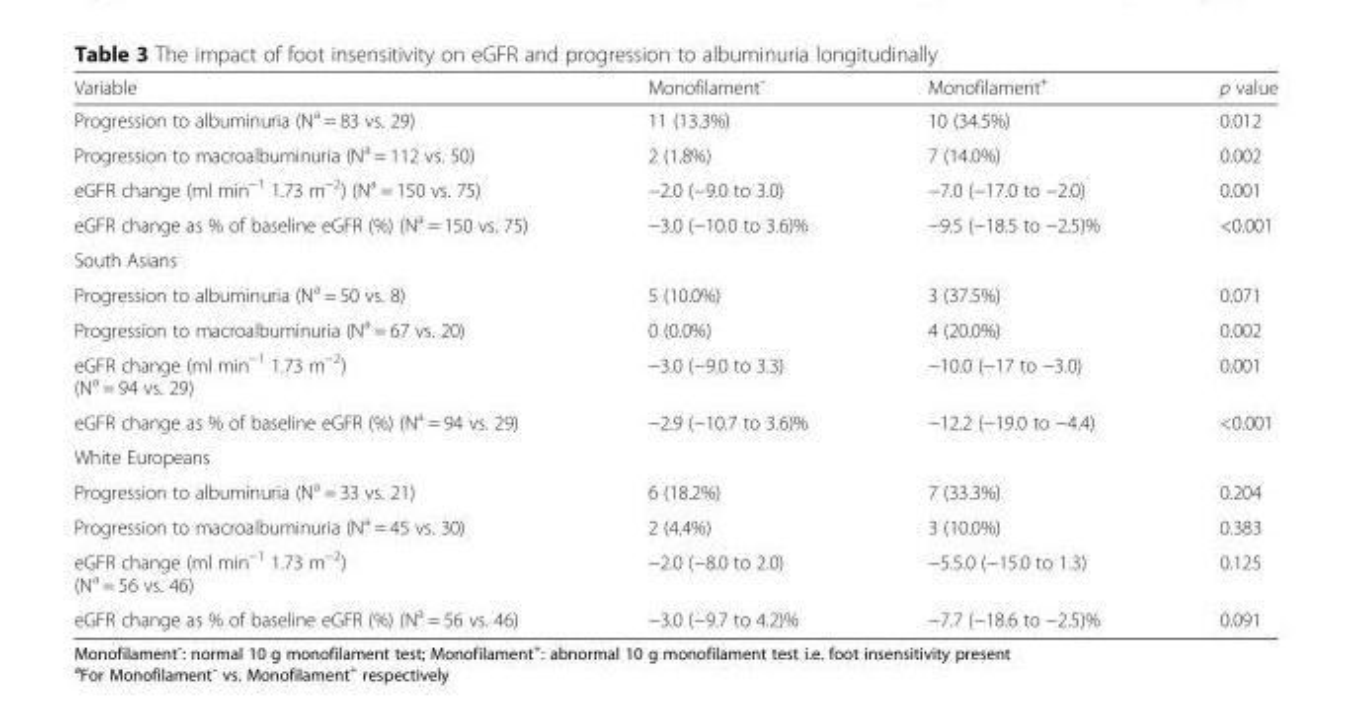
<table><thead><tr><td>Variable</td><td>Monofilament¯</td><td>Monofilament<sup>+</sup></td><td>p value</td></tr></thead><tbody><tr><td>Progression to albuminuria (N<sup>a</sup> = 83 vs. 29)</td><td>11 (13.3%)</td><td>10 (34.5%)</td><td>0.012</td></tr><tr><td>Progression to macroalbuminuria (N<sup>a</sup> = 112 vs. 50)</td><td>2 (1.8%)</td><td>7 (14.0%)</td><td>0.002</td></tr><tr><td>eGFR change (ml min<sup>−1</sup> 1.73 m<sup>−2</sup>) (N<sup>a</sup> = 150 vs. 75)</td><td>−2.0 (−9.0 to 3.0)</td><td>−7.0 (−17.0 to −2.0)</td><td>0.001</td></tr><tr><td>eGFR change as % of baseline eGFR (%) (N<sup>a</sup> = 150 vs. 75)</td><td>−3.0 (−10.0 to 3.6)%</td><td>−9.5 (−18.5 to −2.5)%</td><td>&lt;0.001</td></tr><tr><td colspan="4">South Asians</td></tr><tr><td>Progression to albuminuria (N<sup>a</sup> = 50 vs. 8)</td><td>5 (10.0%)</td><td>3 (37.5%)</td><td>0.071</td></tr><tr><td>Progression to macroalbuminuria (N<sup>a</sup> = 67 vs. 20)</td><td>0 (0.0%)</td><td>4 (20.0%)</td><td>0.002</td></tr><tr><td>eGFR change (ml min<sup>−1</sup> 1.73 m<sup>−2</sup>) (N<sup>a</sup> = 94 vs. 29)</td><td>−3.0 (−9.0 to 3.3)</td><td>−10.0 (−17 to −3.0)</td><td>0.001</td></tr><tr><td>eGFR change as % of baseline eGFR (%) (N<sup>a</sup> = 94 vs. 29)</td><td>−2.9 (−10.7 to 3.6)%</td><td>−12.2 (−19.0 to −4.4)</td><td>&lt;0.001</td></tr><tr><td colspan="4">White Europeans</td></tr><tr><td>Progression to albuminuria (N<sup>a</sup> = 33 vs. 21)</td><td>6 (18.2%)</td><td>7 (33.3%)</td><td>0.204</td></tr><tr><td>Progression to macroalbuminuria (N<sup>a</sup> = 45 vs. 30)</td><td>2 (4.4%)</td><td>3 (10.0%)</td><td>0.383</td></tr><tr><td>eGFR change (ml min<sup>−1</sup> 1.73 m<sup>−2</sup>) (N<sup>a</sup> = 56 vs. 46)</td><td>−2.0 (−8.0 to 2.0)</td><td>−5.5.0 (−15.0 to 1.3)</td><td>0.125</td></tr><tr><td>eGFR change as % of baseline eGFR (%) (N<sup>a</sup> = 56 vs. 46)</td><td>−3.0 (−9.7 to 4.2)%</td><td>−7.7 (−18.6 to −2.5)%</td><td>0.091</td></tr></tbody></table>